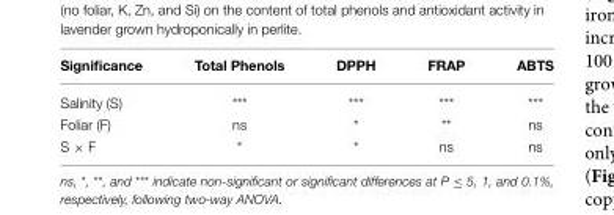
<table><thead><tr><td>Significance</td><td>Total Phenols</td><td>DPPH</td><td>FRAP</td><td>ABTS</td></tr></thead><tbody><tr><td>Salinity (S)</td><td>***</td><td>***</td><td>***</td><td>***</td></tr><tr><td>Foliar (F)</td><td>ns</td><td>*</td><td>**</td><td>ns</td></tr><tr><td>S × F</td><td>*</td><td>*</td><td>ns</td><td>ns</td></tr></tbody></table>